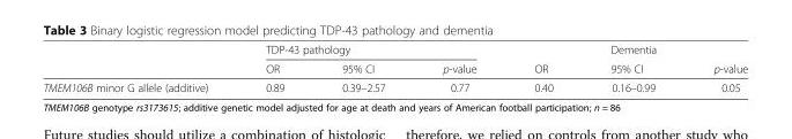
<table><thead><tr><td rowspan="2"></td><td colspan="3">TDP-43 pathology</td><td rowspan="2">OR</td><td rowspan="2">Dementia 95% CI</td><td rowspan="2">p-value</td></tr><tr><td>OR</td><td>95% CI</td><td>p-value</td></tr></thead><tbody><tr><td>TMEM106B minor G allele (additive)</td><td>0.89</td><td>0.39–2.57</td><td>0.77</td><td>0.40</td><td>0.16–0.99</td><td>0.05</td></tr></tbody></table>